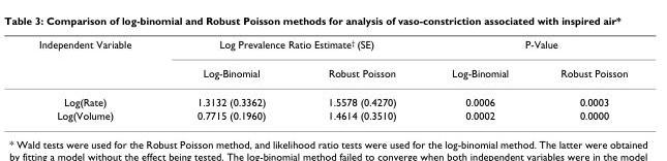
<table><thead><tr><td rowspan="2">Independent Variable</td><td colspan="2">Log Prevalence Ratio Estimate<sup>†</sup> (SE)</td><td colspan="2">P-Value</td></tr><tr><td>Log-Binomial</td><td>Robust Poisson</td><td>Log-Binomial</td><td>Robust Poisson</td></tr></thead><tbody><tr><td>Log(Rate)</td><td>1.3132 (0.3362)</td><td>1.5578 (0.4270)</td><td>0.0006</td><td>0.0003</td></tr><tr><td>Log(Volume)</td><td>0.7715 (0.1960)</td><td>1.4614 (0.3510)</td><td>0.0002</td><td>0.0000</td></tr></tbody></table>